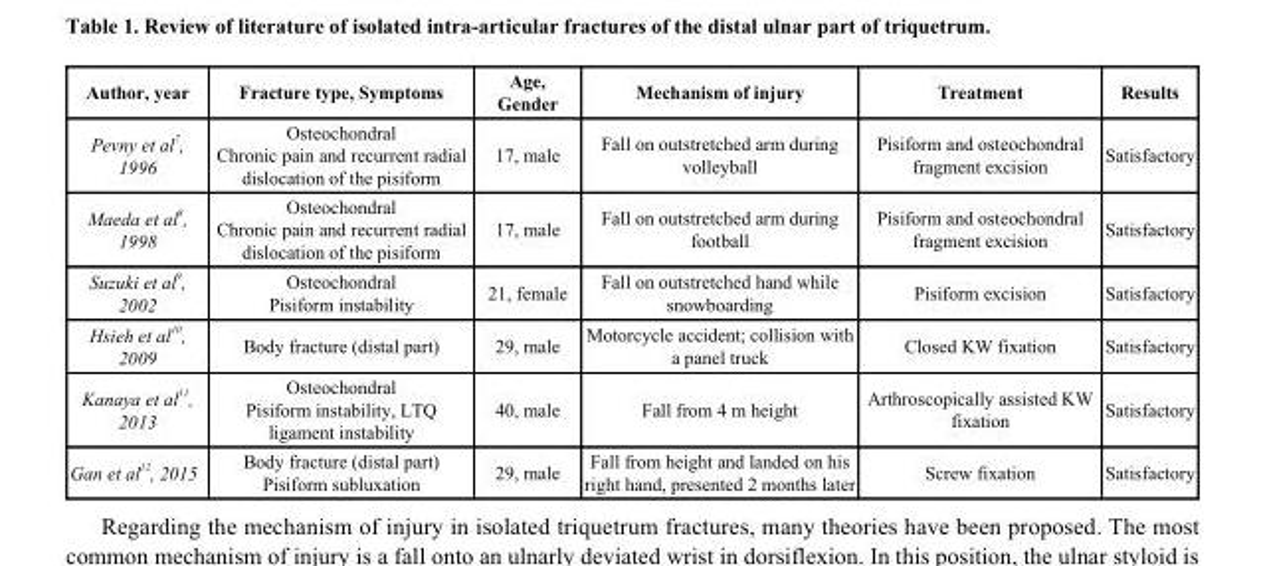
<table><thead><tr><td>Author, year</td><td>Fracture type, Symptoms</td><td>Age, Gender</td><td>Mechanism of injury</td><td>Treatment</td><td>Results</td></tr></thead><tbody><tr><td>Pevny et al <sup>7</sup>, 1996</td><td>Osteochondral Chronic pain and recurrent radial dislocation of the pisiform</td><td>17, male</td><td>Fall on outstretched arm during volleyball</td><td>Pisiform and osteochondral fragment excision</td><td>Satisfactory</td></tr><tr><td>Maeda et al <sup>8</sup>, 1998</td><td>Osteochondral Chronic pain and recurrent radial dislocation of the pisiform</td><td>17, male</td><td>Fall on outstretched arm during football</td><td>Pisiform and osteochondral fragment excision</td><td>Satisfactory</td></tr><tr><td>Suzuki et al <sup>9</sup>, 2002</td><td>Osteochondral Pisiform instability</td><td>21, female</td><td>Fall on outstretched hand while snowboarding</td><td>Pisiform excision</td><td>Satisfactory</td></tr><tr><td>Hsieh et al <sup>10</sup>, 2009</td><td>Body fracture (distal part)</td><td>29, male</td><td>Motorcycle accident; collision with a panel truck</td><td>Closed KW fixation</td><td>Satisfactory</td></tr><tr><td>Kanaya et al <sup>11</sup>, 2013</td><td>Osteochondral Pisiform instability, LTQ ligament instability</td><td>40, male</td><td>Fall from 4 m height</td><td>Arthroscopically assisted KW fixation</td><td>Satisfactory</td></tr><tr><td>Gan et al <sup>12</sup>, 2015</td><td>Body fracture (distal part) Pisiform subluxation</td><td>29, male</td><td>Fall from height and landed on his right hand, presented 2 months later</td><td>Screw fixation</td><td>Satisfactory</td></tr></tbody></table>